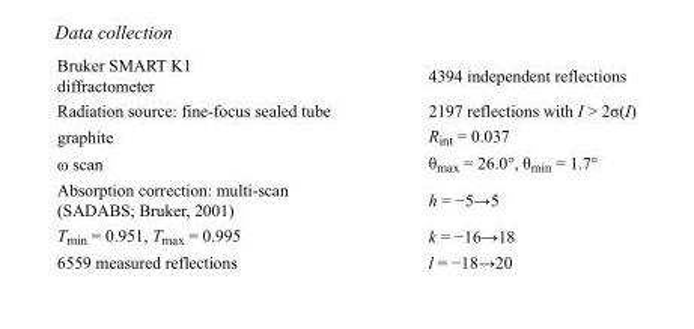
<table><tbody><tr><td>Bruker SMART K1 diffractometer</td><td>4394 independent reflections</td></tr><tr><td>Radiation source: fine-focus sealed tube</td><td>2197 reflections with I &gt; 2σ(I)</td></tr><tr><td>graphite</td><td>R<sub>int</sub> = 0.037</td></tr><tr><td>ω scan</td><td>θ<sub>max</sub> = 26.0°, θ<sub>min</sub> = 1.7°</td></tr><tr><td>Absorption correction: multi-scan (SADABS; Bruker, 2001)</td><td>h = −5→5</td></tr><tr><td>T<sub>min</sub> = 0.951, T<sub>max</sub> = 0.995</td><td>k = −16→18</td></tr><tr><td>6559 measured reflections</td><td>l = −18→20</td></tr></tbody></table>